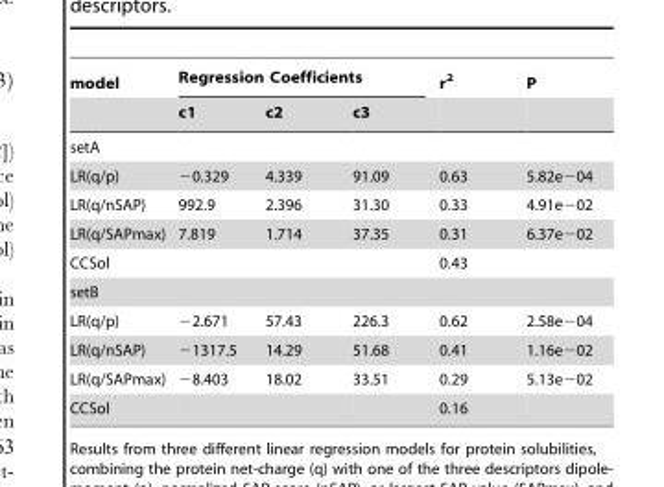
<table><thead><tr><td rowspan="2">model</td><td colspan="3">Regression Coefficients</td><td rowspan="2">r<sup>2</sup></td><td rowspan="2">P</td></tr><tr><td>c1</td><td>c2</td><td>c3</td></tr></thead><tbody><tr><td colspan="6">setA</td></tr><tr><td>LR(q/p)</td><td>−0.329</td><td>4.339</td><td>91.09</td><td>0.63</td><td>5.82e−04</td></tr><tr><td>LR(q/nSAP)</td><td>992.9</td><td>2.396</td><td>31.30</td><td>0.33</td><td>4.91e−02</td></tr><tr><td>LR(q/SAPmax)</td><td>7.819</td><td>1.714</td><td>37.35</td><td>0.31</td><td>6.37e−02</td></tr><tr><td>CCSol</td><td></td><td></td><td></td><td>0.43</td><td></td></tr><tr><td colspan="6">setB</td></tr><tr><td>LR(q/p)</td><td>−2.671</td><td>57.43</td><td>226.3</td><td>0.62</td><td>2.58e−04</td></tr><tr><td>LR(q/nSAP)</td><td>−1317.5</td><td>14.29</td><td>51.68</td><td>0.41</td><td>1.16e−02</td></tr><tr><td>LR(q/SAPmax)</td><td>−8.403</td><td>18.02</td><td>33.51</td><td>0.29</td><td>5.13e−02</td></tr><tr><td>CCSol</td><td></td><td></td><td></td><td>0.16</td><td></td></tr></tbody></table>